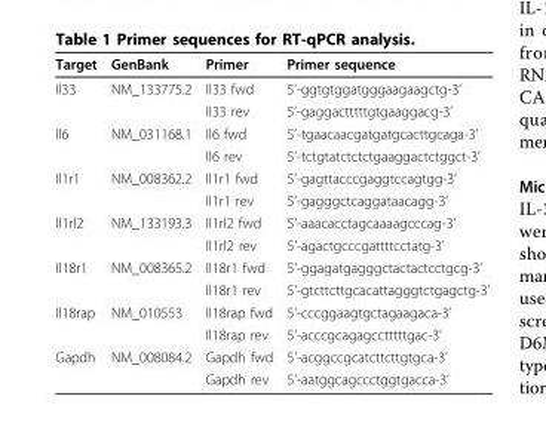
<table><thead><tr><td>Target</td><td>GenBank</td><td>Primer</td><td>Primer sequence</td></tr></thead><tbody><tr><td rowspan="2">Il33</td><td>NM_133775.2</td><td>Il33 fwd</td><td>5’-ggtgtggatgggaagaagctg-3’</td></tr><tr><td></td><td>Il33 rev</td><td>5’-gaggactttttgtgaaggacg-3’</td></tr><tr><td rowspan="2">Il6</td><td>NM_031168.1</td><td>Il6 fwd</td><td>5’-tgaacaacgatgatgcacttgcaga-3’</td></tr><tr><td></td><td>Il6 rev</td><td>5’-tctgtatctctctgaaggactctggct-3’</td></tr><tr><td rowspan="2">Il1r1</td><td>NM_008362.2</td><td>Il1r1 fwd</td><td>5’-gagttacccgaggtccagtgg-3’</td></tr><tr><td></td><td>Il1r1 rev</td><td>5’-gagggctcaggataacagg-3’</td></tr><tr><td rowspan="2">Il1rl2</td><td>NM_133193.3</td><td>Il1rl2 fwd</td><td>5’-aaacacctagcaaaagcccag-3’</td></tr><tr><td></td><td>Il1rl2 rev</td><td>5’-agactgcccgattttcctatg-3’</td></tr><tr><td rowspan="2">Il18r1</td><td>NM_008365.2</td><td>Il18r1 fwd</td><td>5’-ggagatgagggctactactcctgcg-3’</td></tr><tr><td></td><td>Il18r1 rev</td><td>5’-gtcttcttgcacattagggtctgagctg-3’</td></tr><tr><td rowspan="2">Il18rap</td><td>NM_010553</td><td>Il18rap fwd</td><td>5’-cccggaagtgctagaagaca-3’</td></tr><tr><td></td><td>Il18rap rev</td><td>5’-acccgcagagcctttttgac-3’</td></tr><tr><td rowspan="2">Gapdh</td><td>NM_008084.2</td><td>Gapdh fwd</td><td>5’-acggccgcatcttcttgtgca-3’</td></tr><tr><td></td><td>Gapdh rev</td><td>5’-aatggcagccctggtgacca-3’</td></tr></tbody></table>